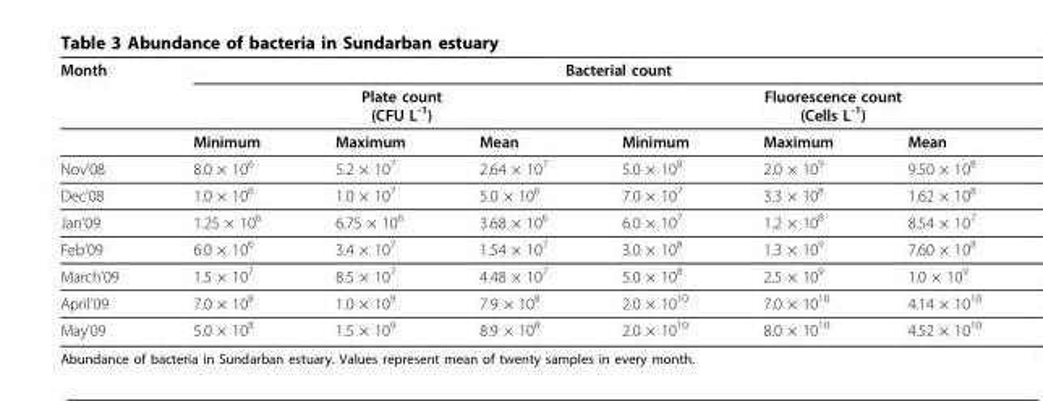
<table><thead><tr><td rowspan="3">Month</td><td colspan="6">Bacterial count</td></tr><tr><td colspan="3">Plate count (CFU L<sup>-1</sup>)</td><td colspan="3">Fluorescence count (Cells L<sup>-1</sup>)</td></tr><tr><td>Minimum</td><td>Maximum</td><td>Mean</td><td>Minimum</td><td>Maximum</td><td>Mean</td></tr></thead><tbody><tr><td>Nov’08</td><td>8.0 × 10<sup>6</sup></td><td>5.2 × 10<sup>7</sup></td><td>2.64 × 10<sup>7</sup></td><td>5.0 × 10<sup>8</sup></td><td>2.0 × 10<sup>9</sup></td><td>9.50 × 10<sup>8</sup></td></tr><tr><td>Dec’08</td><td>1.0 × 10<sup>6</sup></td><td>1.0 × 10<sup>7</sup></td><td>5.0 × 10<sup>6</sup></td><td>7.0 × 10<sup>7</sup></td><td>3.3 × 10<sup>8</sup></td><td>1.62 × 10<sup>8</sup></td></tr><tr><td>Jan’09</td><td>1.25 × 10<sup>6</sup></td><td>6.75 × 10<sup>6</sup></td><td>3.68 × 10<sup>6</sup></td><td>6.0 × 10<sup>7</sup></td><td>1.2 × 10<sup>8</sup></td><td>8.54 × 10<sup>7</sup></td></tr><tr><td>Feb’09</td><td>6.0 × 10<sup>6</sup></td><td>3.4 × 10<sup>7</sup></td><td>1.54 × 10<sup>7</sup></td><td>3.0 × 10<sup>8</sup></td><td>1.3 × 10<sup>9</sup></td><td>7.60 × 10<sup>8</sup></td></tr><tr><td>March’09</td><td>1.5 × 10<sup>7</sup></td><td>8.5 × 10<sup>7</sup></td><td>4.48 × 10<sup>7</sup></td><td>5.0 × 10<sup>8</sup></td><td>2.5 × 10<sup>9</sup></td><td>1.0 × 10<sup>9</sup></td></tr><tr><td>April’09</td><td>7.0 × 10<sup>8</sup></td><td>1.0 × 10<sup>9</sup></td><td>7.9 × 10<sup>8</sup></td><td>2.0 × 10<sup>10</sup></td><td>7.0 × 10<sup>10</sup></td><td>4.14 × 10<sup>10</sup></td></tr><tr><td>May’09</td><td>5.0 × 10<sup>8</sup></td><td>1.5 × 10<sup>9</sup></td><td>8.9 × 10<sup>8</sup></td><td>2.0 × 10<sup>10</sup></td><td>8.0 × 10<sup>10</sup></td><td>4.52 × 10<sup>10</sup></td></tr></tbody></table>